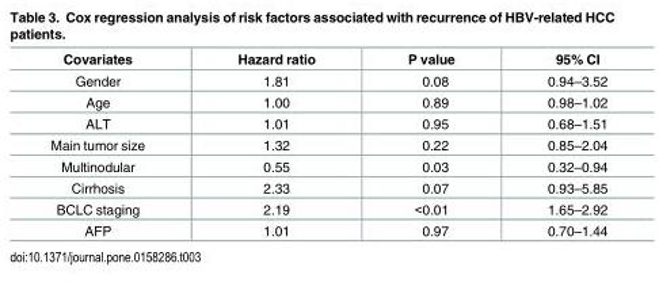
<table><thead><tr><td>Covariates</td><td>Hazard ratio</td><td>P value</td><td>95% CI</td></tr></thead><tbody><tr><td>Gender</td><td>1.81</td><td>0.08</td><td>0.94–3.52</td></tr><tr><td>Age</td><td>1.00</td><td>0.89</td><td>0.98–1.02</td></tr><tr><td>ALT</td><td>1.01</td><td>0.95</td><td>0.68–1.51</td></tr><tr><td>Main tumor size</td><td>1.32</td><td>0.22</td><td>0.85–2.04</td></tr><tr><td>Multinodular</td><td>0.55</td><td>0.03</td><td>0.32–0.94</td></tr><tr><td>Cirrhosis</td><td>2.33</td><td>0.07</td><td>0.93–5.85</td></tr><tr><td>BCLC staging</td><td>2.19</td><td>&lt;0.01</td><td>1.65–2.92</td></tr><tr><td>AFP</td><td>1.01</td><td>0.97</td><td>0.70–1.44</td></tr></tbody></table>